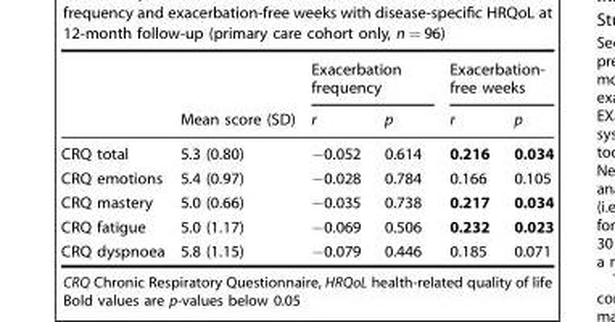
<table><thead><tr><td rowspan="2"></td><td rowspan="2">Mean score (SD)</td><td colspan="2">Exacerbation frequency</td><td colspan="2">Exacerbation- free weeks</td></tr><tr><td>r</td><td>p</td><td>r</td><td>p</td></tr></thead><tbody><tr><td>CRQ total</td><td>5.3 (0.80)</td><td>−0.052</td><td>0.614</td><td>0.216</td><td>0.034</td></tr><tr><td>CRQ emotions</td><td>5.4 (0.97)</td><td>−0.028</td><td>0.784</td><td>0.166</td><td>0.105</td></tr><tr><td>CRQ mastery</td><td>5.0 (0.66)</td><td>−0.035</td><td>0.738</td><td>0.217</td><td>0.034</td></tr><tr><td>CRQ fatigue</td><td>5.0 (1.17)</td><td>−0.069</td><td>0.506</td><td>0.232</td><td>0.023</td></tr><tr><td>CRQ dyspnoea</td><td>5.8 (1.15)</td><td>−0.079</td><td>0.446</td><td>0.185</td><td>0.071</td></tr></tbody></table>